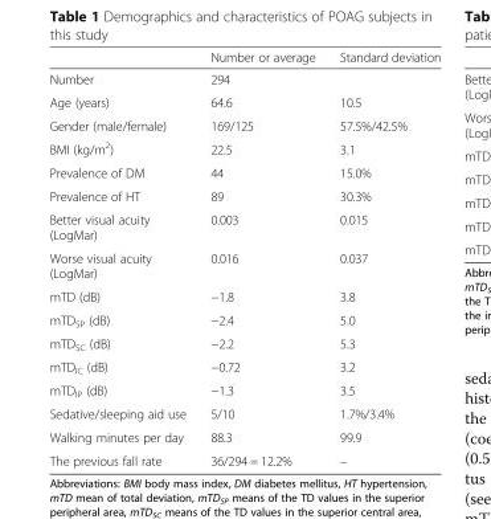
<table><thead><tr><td></td><td>Number or average</td><td>Standard deviation</td></tr></thead><tbody><tr><td>Number</td><td>294</td><td></td></tr><tr><td>Age (years)</td><td>64.6</td><td>10.5</td></tr><tr><td>Gender (male/female)</td><td>169/125</td><td>57.5%/42.5%</td></tr><tr><td>BMI (kg/m<sup>2</sup>)</td><td>22.5</td><td>3.1</td></tr><tr><td>Prevalence of DM</td><td>44</td><td>15.0%</td></tr><tr><td>Prevalence of HT</td><td>89</td><td>30.3%</td></tr><tr><td>Better visual acuity (LogMar)</td><td>0.003</td><td>0.015</td></tr><tr><td>Worse visual acuity (LogMar)</td><td>0.016</td><td>0.037</td></tr><tr><td>mTD (dB)</td><td>−1.8</td><td>3.8</td></tr><tr><td>mTD<sub>SP</sub> (dB)</td><td>−2.4</td><td>5.0</td></tr><tr><td>mTD<sub>SC</sub> (dB)</td><td>−2.2</td><td>5.3</td></tr><tr><td>mTD<sub>IC</sub> (dB)</td><td>−0.72</td><td>3.2</td></tr><tr><td>mTD<sub>IP</sub> (dB)</td><td>−1.3</td><td>3.5</td></tr><tr><td>Sedative/sleeping aid use</td><td>5/10</td><td>1.7%/3.4%</td></tr><tr><td>Walking minutes per day</td><td>88.3</td><td>99.9</td></tr><tr><td>The previous fall rate</td><td>36/294 = 12.2%</td><td>–</td></tr></tbody></table>